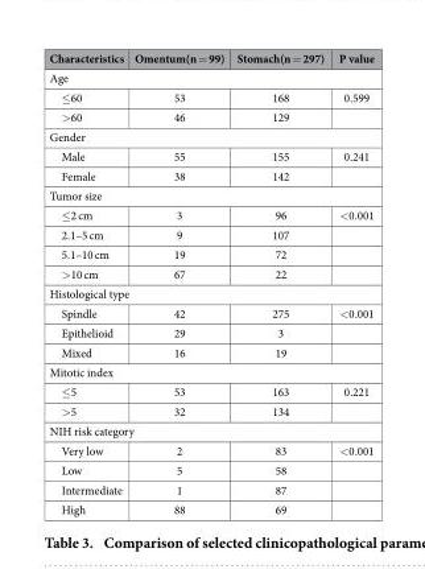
<table><thead><tr><td>Characteristics</td><td>Omentum(n = 99)</td><td>Stomach(n = 297)</td><td>P value</td></tr></thead><tbody><tr><td colspan="4">Age</td></tr><tr><td>≤ 60</td><td>53</td><td>168</td><td>0.599</td></tr><tr><td>&gt; 60</td><td>46</td><td>129</td><td></td></tr><tr><td colspan="4">Gender</td></tr><tr><td>Male</td><td>55</td><td>155</td><td>0.241</td></tr><tr><td>Female</td><td>38</td><td>142</td><td></td></tr><tr><td colspan="4">Tumor size</td></tr><tr><td>≤ 2 cm</td><td>3</td><td>96</td><td>&lt; 0.001</td></tr><tr><td>2.1–5 cm</td><td>9</td><td>107</td><td></td></tr><tr><td>5.1–10 cm</td><td>19</td><td>72</td><td></td></tr><tr><td>&gt; 10 cm</td><td>67</td><td>22</td><td></td></tr><tr><td colspan="4">Histological type</td></tr><tr><td>Spindle</td><td>42</td><td>275</td><td>&lt; 0.001</td></tr><tr><td>Epithelioid</td><td>29</td><td>3</td><td></td></tr><tr><td>Mixed</td><td>16</td><td>19</td><td></td></tr><tr><td colspan="4">Mitotic index</td></tr><tr><td>≤ 5</td><td>53</td><td>163</td><td>0.221</td></tr><tr><td>&gt; 5</td><td>32</td><td>134</td><td></td></tr><tr><td colspan="4">NIH risk category</td></tr><tr><td>Very low</td><td>2</td><td>83</td><td>&lt; 0.001</td></tr><tr><td>Low</td><td>5</td><td>58</td><td></td></tr><tr><td>Intermediate</td><td>1</td><td>87</td><td></td></tr><tr><td>High</td><td>88</td><td>69</td><td></td></tr></tbody></table>